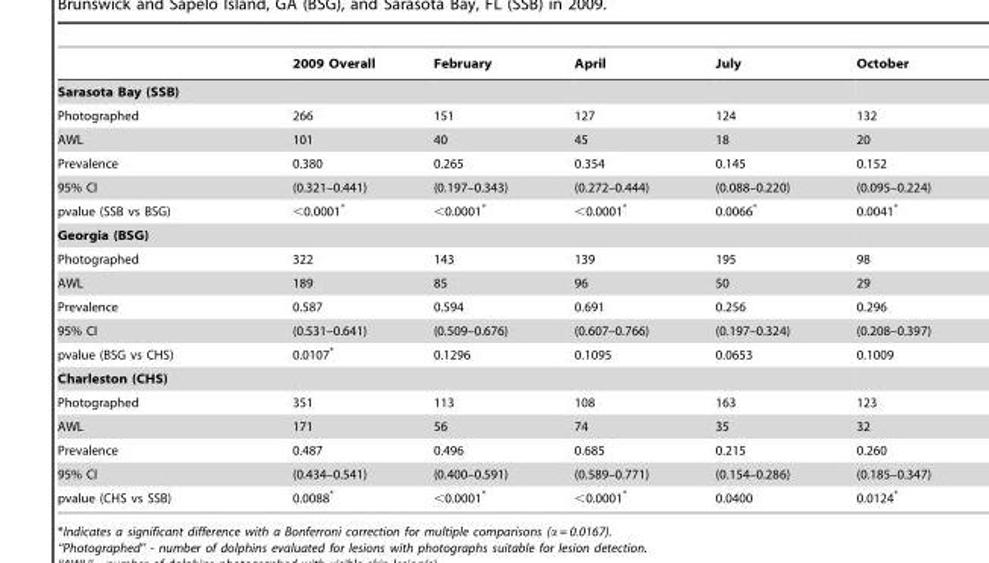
<table><thead><tr><td></td><td>2009 Overall</td><td>February</td><td>April</td><td>July</td><td>October</td></tr></thead><tbody><tr><td colspan="6">Sarasota Bay (SSB)</td></tr><tr><td>Photographed</td><td>266</td><td>151</td><td>127</td><td>124</td><td>132</td></tr><tr><td>AWL</td><td>101</td><td>40</td><td>45</td><td>18</td><td>20</td></tr><tr><td>Prevalence</td><td>0.380</td><td>0.265</td><td>0.354</td><td>0.145</td><td>0.152</td></tr><tr><td>95% CI</td><td>(0.321–0.441)</td><td>(0.197–0.343)</td><td>(0.272–0.444)</td><td>(0.088–0.220)</td><td>(0.095–0.224)</td></tr><tr><td>pvalue (SSB vs BSG)</td><td>&lt;0.0001*</td><td>&lt;0.0001*</td><td>&lt;0.0001*</td><td>0.0066*</td><td>0.0041*</td></tr><tr><td colspan="6">Georgia (BSG)</td></tr><tr><td>Photographed</td><td>322</td><td>143</td><td>139</td><td>195</td><td>98</td></tr><tr><td>AWL</td><td>189</td><td>85</td><td>96</td><td>50</td><td>29</td></tr><tr><td>Prevalence</td><td>0.587</td><td>0.594</td><td>0.691</td><td>0.256</td><td>0.296</td></tr><tr><td>95% CI</td><td>(0.531–0.641)</td><td>(0.509–0.676)</td><td>(0.607–0.766)</td><td>(0.197–0.324)</td><td>(0.208–0.397)</td></tr><tr><td>pvalue (BSG vs CHS)</td><td>0.0107*</td><td>0.1296</td><td>0.1095</td><td>0.0653</td><td>0.1009</td></tr><tr><td colspan="6">Charleston (CHS)</td></tr><tr><td>Photographed</td><td>351</td><td>113</td><td>108</td><td>163</td><td>123</td></tr><tr><td>AWL</td><td>171</td><td>56</td><td>74</td><td>35</td><td>32</td></tr><tr><td>Prevalence</td><td>0.487</td><td>0.496</td><td>0.685</td><td>0.215</td><td>0.260</td></tr><tr><td>95% CI</td><td>(0.434–0.541)</td><td>(0.400–0.591)</td><td>(0.589–0.771)</td><td>(0.154–0.286)</td><td>(0.185–0.347)</td></tr><tr><td>pvalue (CHS vs SSB)</td><td>0.0088*</td><td>&lt;0.0001*</td><td>&lt;0.0001*</td><td>0.0400</td><td>0.0124*</td></tr></tbody></table>